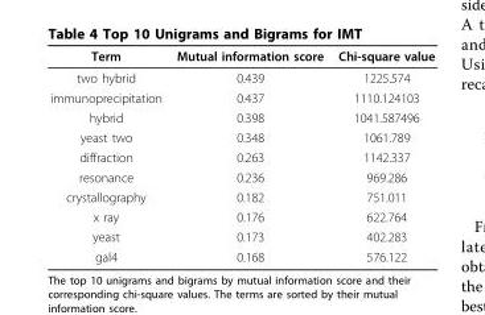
<table><thead><tr><td>Term</td><td>Mutual information score</td><td>Chi-square value</td></tr></thead><tbody><tr><td>two hybrid</td><td>0.439</td><td>1225.574</td></tr><tr><td>immunoprecipitation</td><td>0.437</td><td>1110.124103</td></tr><tr><td>hybrid</td><td>0.398</td><td>1041.587496</td></tr><tr><td>yeast two</td><td>0.348</td><td>1061.789</td></tr><tr><td>diffraction</td><td>0.263</td><td>1142.337</td></tr><tr><td>resonance</td><td>0.236</td><td>969.286</td></tr><tr><td>crystallography</td><td>0.182</td><td>751.011</td></tr><tr><td>x ray</td><td>0.176</td><td>622.764</td></tr><tr><td>yeast</td><td>0.173</td><td>402.283</td></tr><tr><td>gal4</td><td>0.168</td><td>576.122</td></tr></tbody></table>